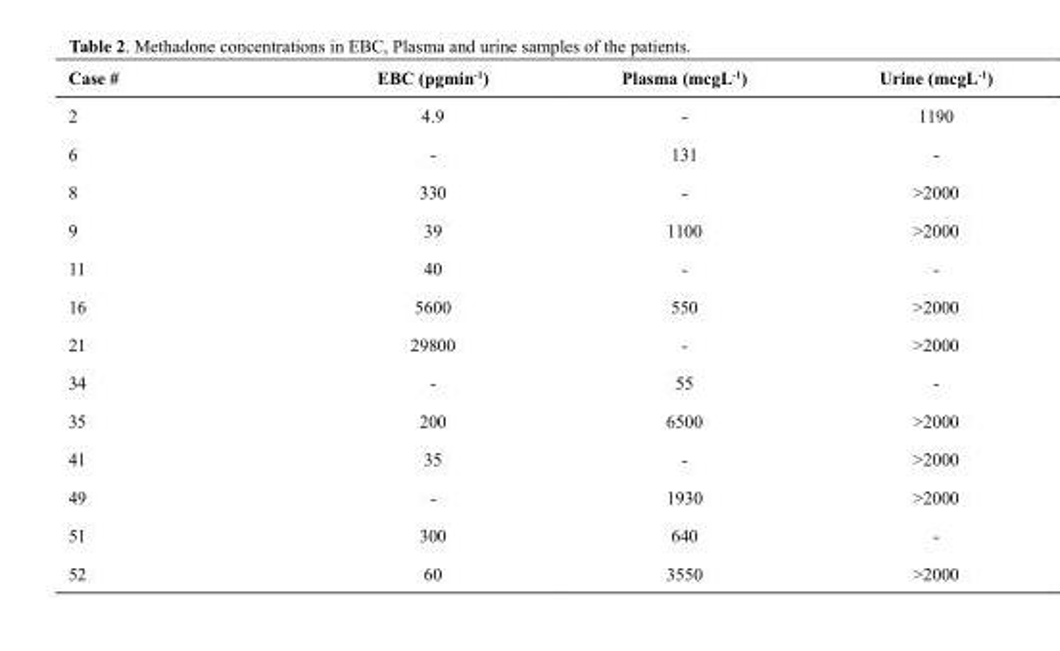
<table><thead><tr><td>Case #</td><td>EBC (pgmin<sup>-1</sup>)</td><td>Plasma (mcgL<sup>-1</sup>)</td><td>Urine (mcgL<sup>-1</sup>)</td></tr></thead><tbody><tr><td>2</td><td>4.9</td><td>-</td><td>1190</td></tr><tr><td>6</td><td>-</td><td>131</td><td>-</td></tr><tr><td>8</td><td>330</td><td>-</td><td>&gt;2000</td></tr><tr><td>9</td><td>39</td><td>1100</td><td>&gt;2000</td></tr><tr><td>11</td><td>40</td><td>-</td><td>-</td></tr><tr><td>16</td><td>5600</td><td>550</td><td>&gt;2000</td></tr><tr><td>21</td><td>29800</td><td>-</td><td>&gt;2000</td></tr><tr><td>34</td><td>-</td><td>55</td><td>-</td></tr><tr><td>35</td><td>200</td><td>6500</td><td>&gt;2000</td></tr><tr><td>41</td><td>35</td><td>-</td><td>&gt;2000</td></tr><tr><td>49</td><td>-</td><td>1930</td><td>&gt;2000</td></tr><tr><td>51</td><td>300</td><td>640</td><td>-</td></tr><tr><td>52</td><td>60</td><td>3550</td><td>&gt;2000</td></tr></tbody></table>